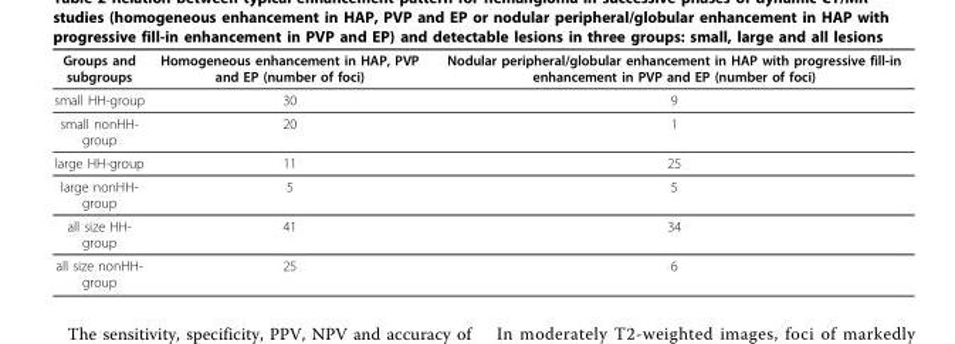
<table><thead><tr><td>Groups and subgroups</td><td>Homogeneous enhancement in HAP, PVP and EP (number of foci)</td><td>Nodular peripheral/globular enhancement in HAP with progressive fill-in enhancement in PVP and EP (number of foci)</td></tr></thead><tbody><tr><td>small HH-group</td><td>30</td><td>9</td></tr><tr><td>small nonHH- group</td><td>20</td><td>1</td></tr><tr><td>large HH-group</td><td>11</td><td>25</td></tr><tr><td>large nonHH- group</td><td>5</td><td>5</td></tr><tr><td>all size HH- group</td><td>41</td><td>34</td></tr><tr><td>all size nonHH- group</td><td>25</td><td>6</td></tr></tbody></table>